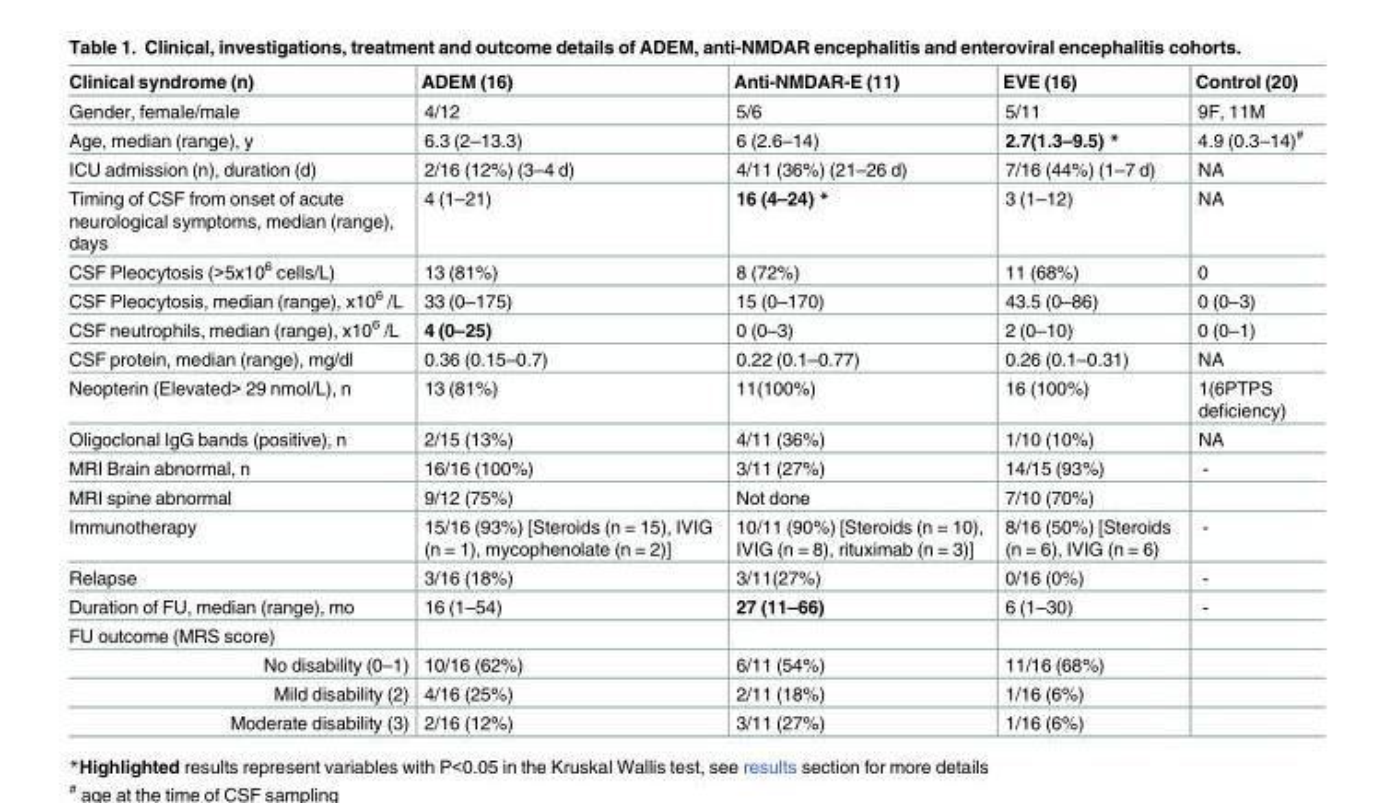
<table><thead><tr><td>Clinical syndrome (n)</td><td>ADEM (16)</td><td>Anti-NMDAR-E (11)</td><td>EVE (16)</td><td>Control (20)</td></tr></thead><tbody><tr><td>Gender, female/male</td><td>4/12</td><td>5/6</td><td>5/11</td><td>9F, 11M</td></tr><tr><td>Age, median (range), y</td><td>6.3 (2–13.3)</td><td>6 (2.6–14)</td><td>2.7(1.3–9.5) *</td><td>4.9 (0.3–14)<sup>#</sup></td></tr><tr><td>ICU admission (n), duration (d)</td><td>2/16 (12%) (3–4 d)</td><td>4/11 (36%) (21–26 d)</td><td>7/16 (44%) (1–7 d)</td><td>NA</td></tr><tr><td>Timing of CSF from onset of acute neurological symptoms, median (range), days</td><td>4 (1–21)</td><td>16 (4–24) *</td><td>3 (1–12)</td><td>NA</td></tr><tr><td>CSF Pleocytosis (&gt;5x10<sup>6</sup> cells/L)</td><td>13 (81%)</td><td>8 (72%)</td><td>11 (68%)</td><td>0</td></tr><tr><td>CSF Pleocytosis, median (range), x10<sup>6</sup> /L</td><td>33 (0–175)</td><td>15 (0–170)</td><td>43.5 (0–86)</td><td>0 (0–3)</td></tr><tr><td>CSF neutrophils, median (range), x10<sup>6</sup> /L</td><td>4 (0–25)</td><td>0 (0–3)</td><td>2 (0–10)</td><td>0 (0–1)</td></tr><tr><td>CSF protein, median (range), mg/dl</td><td>0.36 (0.15–0.7)</td><td>0.22 (0.1–0.77)</td><td>0.26 (0.1–0.31)</td><td>NA</td></tr><tr><td>Neopterin (Elevated&gt; 29 nmol/L), n</td><td>13 (81%)</td><td>11(100%)</td><td>16 (100%)</td><td>1(6PTPS deficiency)</td></tr><tr><td>Oligoclonal IgG bands (positive), n</td><td>2/15 (13%)</td><td>4/11 (36%)</td><td>1/10 (10%)</td><td>NA</td></tr><tr><td>MRI Brain abnormal, n</td><td>16/16 (100%)</td><td>3/11 (27%)</td><td>14/15 (93%)</td><td>-</td></tr><tr><td>MRI spine abnormal</td><td>9/12 (75%)</td><td>Not done</td><td>7/10 (70%)</td><td></td></tr><tr><td>Immunotherapy</td><td>15/16 (93%) [Steroids (n = 15), IVIG (n = 1), mycophenolate (n = 2)]</td><td>10/11 (90%) [Steroids (n = 10), IVIG (n = 8), rituximab (n = 3)]</td><td>8/16 (50%) [Steroids (n = 6), IVIG (n = 6)</td><td>-</td></tr><tr><td>Relapse</td><td>3/16 (18%)</td><td>3/11(27%)</td><td>0/16 (0%)</td><td>-</td></tr><tr><td>Duration of FU, median (range), mo</td><td>16 (1–54)</td><td>27 (11–66)</td><td>6 (1–30)</td><td>-</td></tr><tr><td colspan="5">FU outcome (MRS score)</td></tr><tr><td>No disability (0–1)</td><td>10/16 (62%)</td><td>6/11 (54%)</td><td>11/16 (68%)</td><td></td></tr><tr><td>Mild disability (2)</td><td>4/16 (25%)</td><td>2/11 (18%)</td><td>1/16 (6%)</td><td></td></tr><tr><td>Moderate disability (3)</td><td>2/16 (12%)</td><td>3/11 (27%)</td><td>1/16 (6%)</td><td></td></tr></tbody></table>